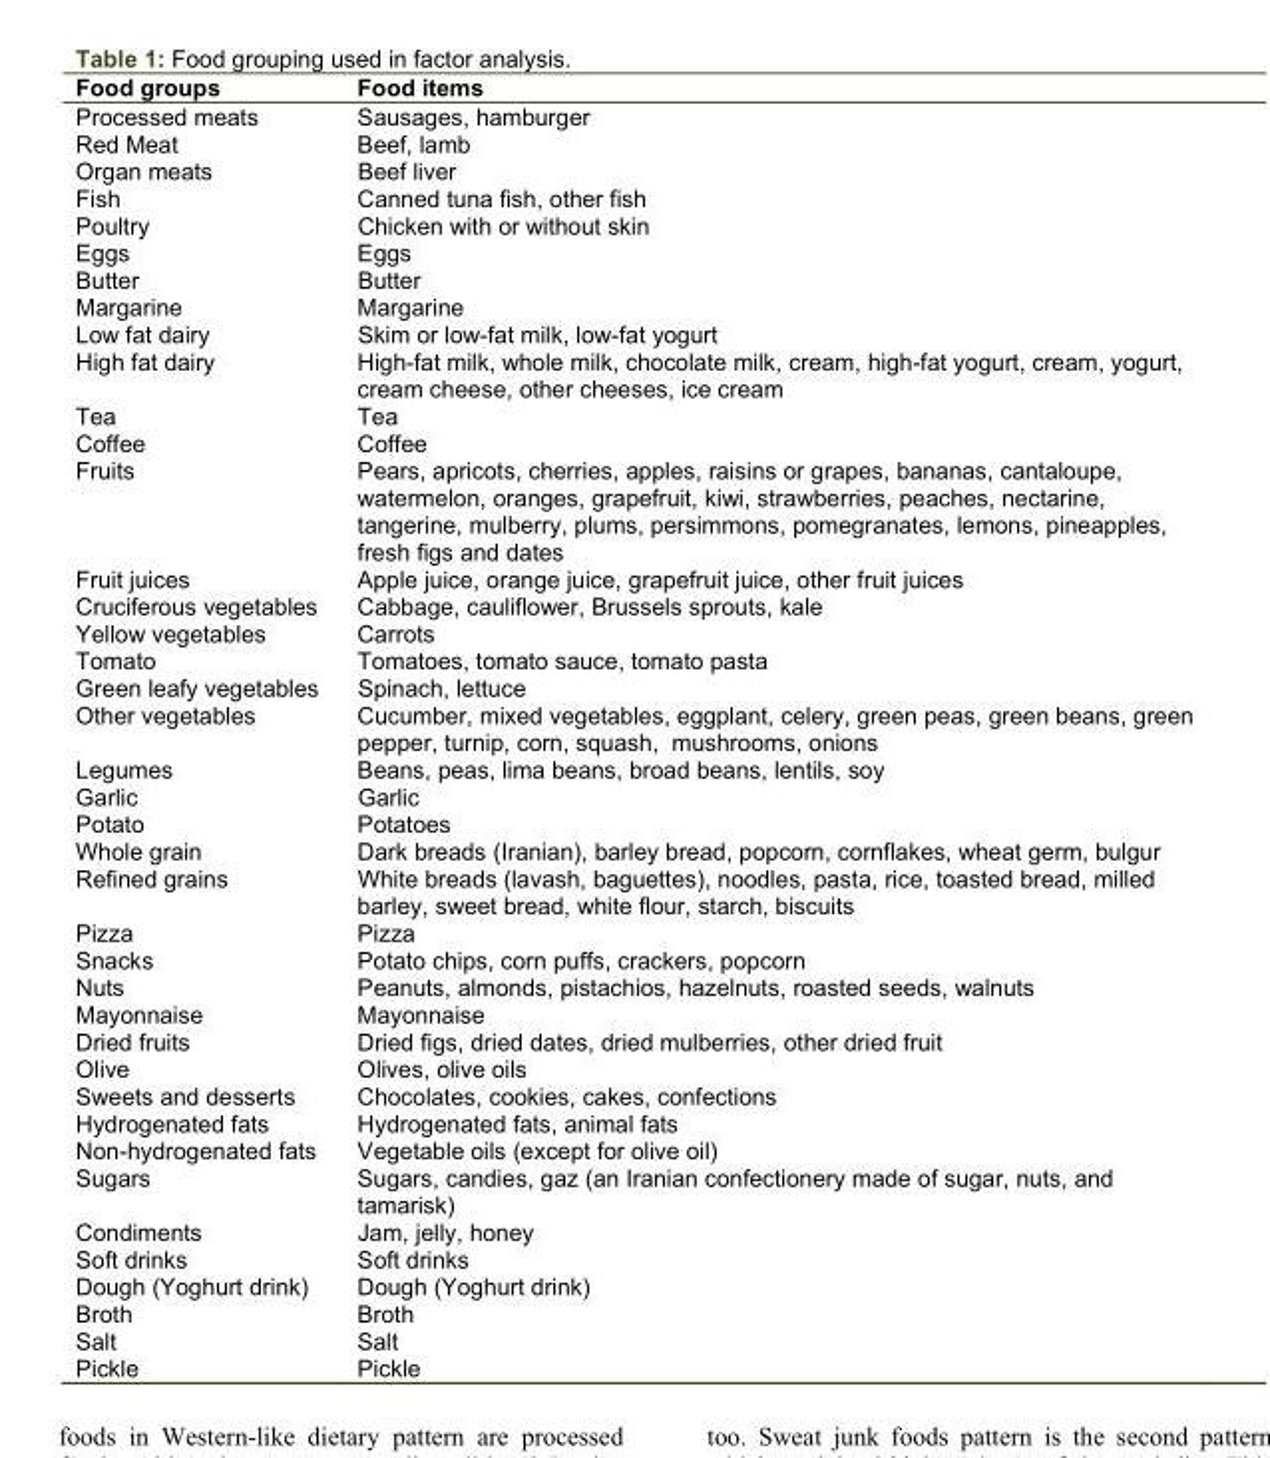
<table><thead><tr><td>Food groups</td><td>Food items</td></tr></thead><tbody><tr><td>Processed meats</td><td>Sausages, hamburger</td></tr><tr><td>Red Meat</td><td>Beef, lamb</td></tr><tr><td>Organ meats</td><td>Beef liver</td></tr><tr><td>Fish</td><td>Canned tuna fish, other fish</td></tr><tr><td>Poultry</td><td>Chicken with or without skin</td></tr><tr><td>Eggs</td><td>Eggs</td></tr><tr><td>Butter</td><td>Butter</td></tr><tr><td>Margarine</td><td>Margarine</td></tr><tr><td>Low fat dairy</td><td>Skim or low-fat milk, low-fat yogurt</td></tr><tr><td>High fat dairy</td><td>High-fat milk, whole milk, chocolate milk, cream, high-fat yogurt, cream, yogurt, cream cheese, other cheeses, ice cream</td></tr><tr><td>Tea</td><td>Tea</td></tr><tr><td>Coffee</td><td>Coffee</td></tr><tr><td>Fruits</td><td>Pears, apricots, cherries, apples, raisins or grapes, bananas, cantaloupe, watermelon, oranges, grapefruit, kiwi, strawberries, peaches, nectarine, tangerine, mulberry, plums, persimmons, pomegranates, lemons, pineapples, fresh figs and dates</td></tr><tr><td>Fruit juices</td><td>Apple juice, orange juice, grapefruit juice, other fruit juices</td></tr><tr><td>Cruciferous vegetables</td><td>Cabbage, cauliflower, Brussels sprouts, kale</td></tr><tr><td>Yellow vegetables</td><td>Carrots</td></tr><tr><td>Tomato</td><td>Tomatoes, tomato sauce, tomato pasta</td></tr><tr><td>Green leafy vegetables</td><td>Spinach, lettuce</td></tr><tr><td>Other vegetables</td><td>Cucumber, mixed vegetables, eggplant, celery, green peas, green beans, green pepper, turnip, corn, squash, mushrooms, onions</td></tr><tr><td>Legumes</td><td>Beans, peas, lima beans, broad beans, lentils, soy</td></tr><tr><td>Garlic</td><td>Garlic</td></tr><tr><td>Potato</td><td>Potatoes</td></tr><tr><td>Whole grain</td><td>Dark breads (Iranian), barley bread, popcorn, cornflakes, wheat germ, bulgur</td></tr><tr><td>Refined grains</td><td>White breads (lavash, baguettes), noodles, pasta, rice, toasted bread, milled barley, sweet bread, white flour, starch, biscuits</td></tr><tr><td>Pizza</td><td>Pizza</td></tr><tr><td>Snacks</td><td>Potato chips, corn puffs, crackers, popcorn</td></tr><tr><td>Nuts</td><td>Peanuts, almonds, pistachios, hazelnuts, roasted seeds, walnuts</td></tr><tr><td>Mayonnaise</td><td>Mayonnaise</td></tr><tr><td>Dried fruits</td><td>Dried figs, dried dates, dried mulberries, other dried fruit</td></tr><tr><td>Olive</td><td>Olives, olive oils</td></tr><tr><td>Sweets and desserts</td><td>Chocolates, cookies, cakes, confections</td></tr><tr><td>Hydrogenated fats</td><td>Hydrogenated fats, animal fats</td></tr><tr><td>Non-hydrogenated fats</td><td>Vegetable oils (except for olive oil)</td></tr><tr><td>Sugars</td><td>Sugars, candies, gaz (an Iranian confectionery made of sugar, nuts, and tamarisk)</td></tr><tr><td>Condiments</td><td>Jam, jelly, honey</td></tr><tr><td>Soft drinks</td><td>Soft drinks</td></tr><tr><td>Dough (Yoghurt drink)</td><td>Dough (Yoghurt drink)</td></tr><tr><td>Broth</td><td>Broth</td></tr><tr><td>Salt</td><td>Salt</td></tr><tr><td>Pickle</td><td>Pickle</td></tr></tbody></table>